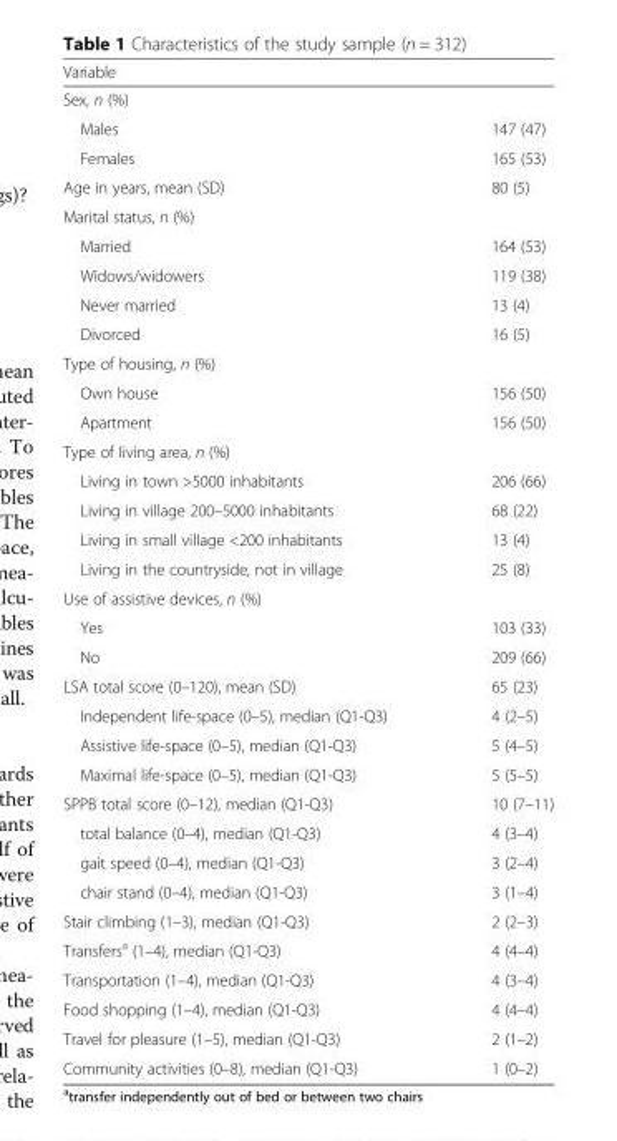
<table><thead><tr><td rowspan="2" colspan="2">Variable Sex, n (%)</td></tr><tr></tr><tr><td>Males</td><td>147 (47)</td></tr></thead><tbody><tr><td>Females</td><td>165 (53)</td></tr><tr><td>Age in years, mean (SD)</td><td>80 (5)</td></tr><tr><td colspan="2">Marital status, n (%)</td></tr><tr><td>Married</td><td>164 (53)</td></tr><tr><td>Widows/widowers</td><td>119 (38)</td></tr><tr><td>Never married</td><td>13 (4)</td></tr><tr><td>Divorced</td><td>16 (5)</td></tr><tr><td colspan="2">Type of housing, n (%)</td></tr><tr><td>Own house</td><td>156 (50)</td></tr><tr><td>Apartment</td><td>156 (50)</td></tr><tr><td colspan="2">Type of living area, n (%)</td></tr><tr><td>Living in town &gt;5000 inhabitants</td><td>206 (66)</td></tr><tr><td>Living in village 200–5000 inhabitants</td><td>68 (22)</td></tr><tr><td>Living in small village &lt;200 inhabitants</td><td>13 (4)</td></tr><tr><td>Living in the countryside, not in village</td><td>25 (8)</td></tr><tr><td colspan="2">Use of assistive devices, n (%)</td></tr><tr><td>Yes</td><td>103 (33)</td></tr><tr><td>No</td><td>209 (66)</td></tr><tr><td>LSA total score (0–120), mean (SD)</td><td>65 (23)</td></tr><tr><td>Independent life-space (0–5), median (Q1-Q3)</td><td>4 (2–5)</td></tr><tr><td>Assistive life-space (0–5), median (Q1-Q3)</td><td>5 (4–5)</td></tr><tr><td>Maximal life-space (0–5), median (Q1-Q3)</td><td>5 (5–5)</td></tr><tr><td>SPPB total score (0–12), median (Q1-Q3)</td><td>10 (7–11)</td></tr><tr><td>total balance (0–4), median (Q1-Q3)</td><td>4 (3–4)</td></tr><tr><td>gait speed (0–4), median (Q1-Q3)</td><td>3 (2–4)</td></tr><tr><td>chair stand (0–4), median (Q1-Q3)</td><td>3 (1–4)</td></tr><tr><td>Stair climbing (1–3), median (Q1-Q3)</td><td>2 (2–3)</td></tr><tr><td>Transfers<sup>a</sup> (1–4), median (Q1-Q3)</td><td>4 (4–4)</td></tr><tr><td>Transportation (1–4), median (Q1-Q3)</td><td>4 (3–4)</td></tr><tr><td>Food shopping (1–4), median (Q1-Q3)</td><td>4 (4–4)</td></tr><tr><td>Travel for pleasure (1–5), median (Q1-Q3)</td><td>2 (1–2)</td></tr><tr><td>Community activities (0–8), median (Q1-Q3)</td><td>1 (0–2)</td></tr></tbody></table>